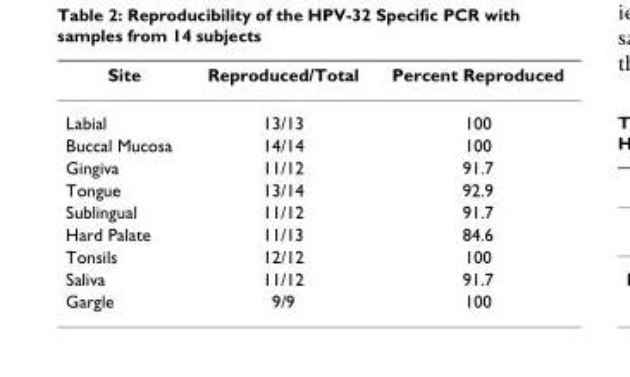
<table><thead><tr><td>Site</td><td>Reproduced/Total</td><td>Percent Reproduced</td></tr></thead><tbody><tr><td>Labial</td><td>13/13</td><td>100</td></tr><tr><td>Buccal Mucosa</td><td>14/14</td><td>100</td></tr><tr><td>Gingiva</td><td>11/12</td><td>91.7</td></tr><tr><td>Tongue</td><td>13/14</td><td>92.9</td></tr><tr><td>Sublingual</td><td>11/12</td><td>91.7</td></tr><tr><td>Hard Palate</td><td>11/13</td><td>84.6</td></tr><tr><td>Tonsils</td><td>12/12</td><td>100</td></tr><tr><td>Saliva</td><td>11/12</td><td>91.7</td></tr><tr><td>Gargle</td><td>9/9</td><td>100</td></tr></tbody></table>